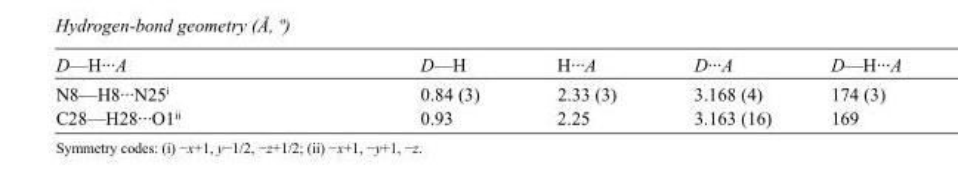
<table><tbody><tr><td>D—H···A</td><td>D—H</td><td>H···A</td><td>D···A</td><td>D—H···A</td></tr><tr><td>N8—H8···N25<sup>i</sup></td><td>0.84 (3)</td><td>2.33 (3)</td><td>3.168 (4)</td><td>174 (3)</td></tr><tr><td>C28—H28···O1<sup>ii</sup></td><td>0.93</td><td>2.25</td><td>3.163 (16)</td><td>169</td></tr></tbody></table>